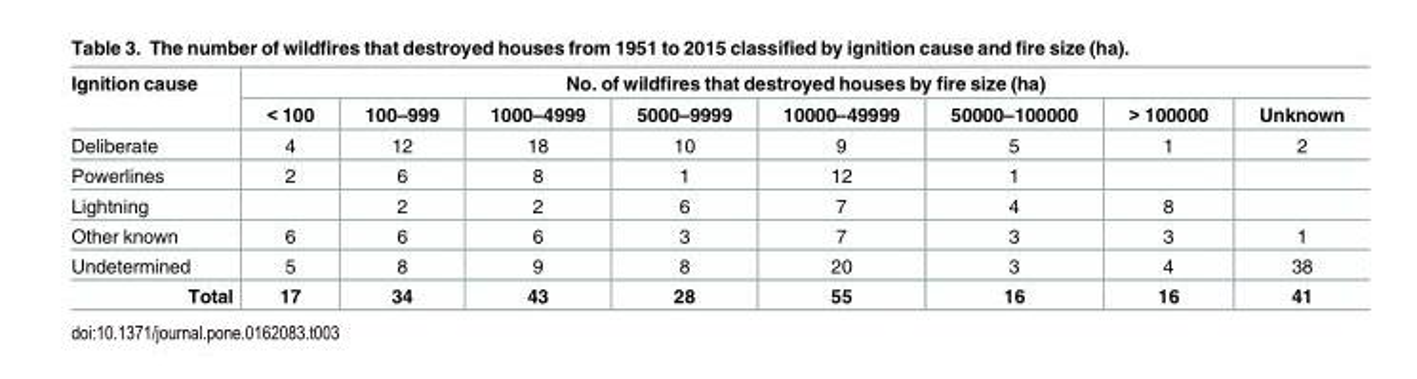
<table><thead><tr><td rowspan="2">Ignition cause</td><td colspan="8">No. of wildfires that destroyed houses by fire size (ha)</td></tr><tr><td>&lt; 100</td><td>100–999</td><td>1000–4999</td><td>5000–9999</td><td>10000–49999</td><td>50000–100000</td><td>&gt; 100000</td><td>Unknown</td></tr></thead><tbody><tr><td>Deliberate</td><td>4</td><td>12</td><td>18</td><td>10</td><td>9</td><td>5</td><td>1</td><td>2</td></tr><tr><td>Powerlines</td><td>2</td><td>6</td><td>8</td><td>1</td><td>12</td><td>1</td><td></td><td></td></tr><tr><td>Lightning</td><td></td><td>2</td><td>2</td><td>6</td><td>7</td><td>4</td><td>8</td><td></td></tr><tr><td>Other known</td><td>6</td><td>6</td><td>6</td><td>3</td><td>7</td><td>3</td><td>3</td><td>1</td></tr><tr><td>Undetermined</td><td>5</td><td>8</td><td>9</td><td>8</td><td>20</td><td>3</td><td>4</td><td>38</td></tr><tr><td>Total</td><td>17</td><td>34</td><td>43</td><td>28</td><td>55</td><td>16</td><td>16</td><td>41</td></tr></tbody></table>